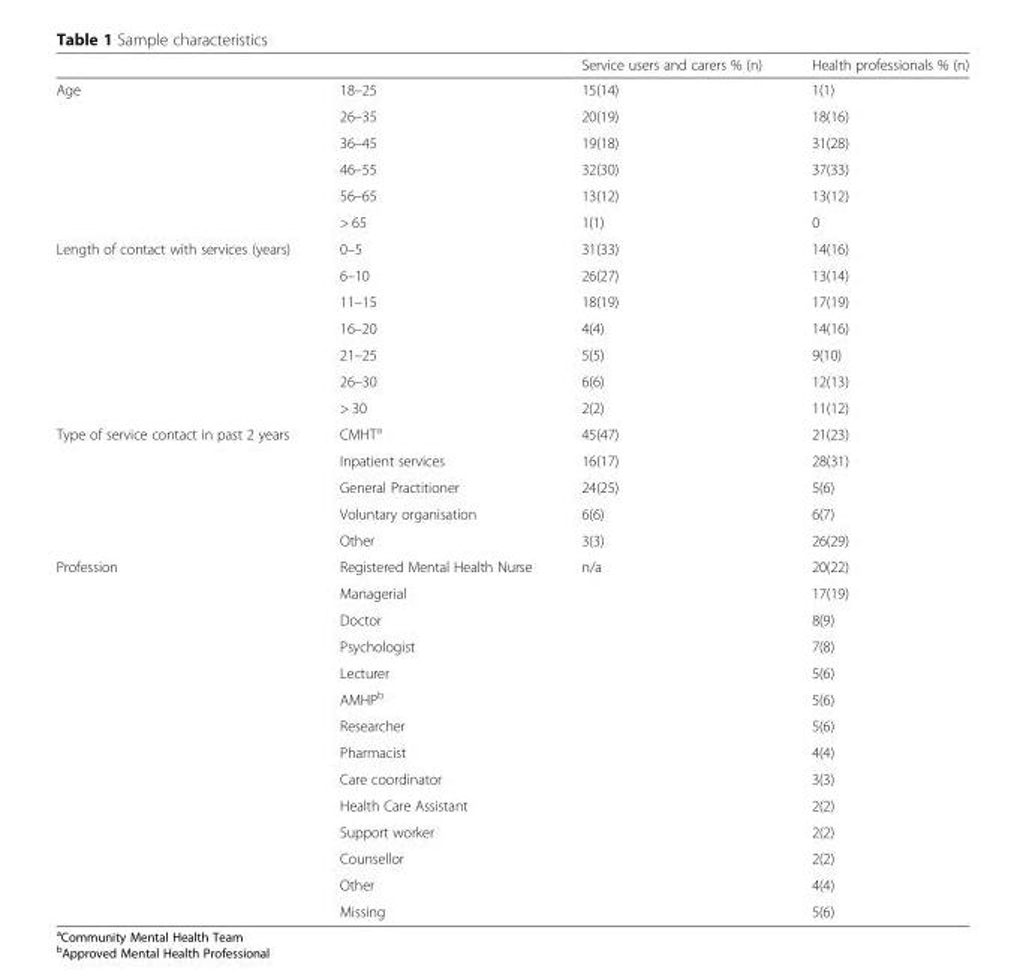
<table><thead><tr><td></td><td></td><td>Service users and carers % (n)</td><td>Health professionals % (n)</td></tr></thead><tbody><tr><td rowspan="6">Age</td><td>18–25</td><td>15(14)</td><td>1(1)</td></tr><tr><td>26–35</td><td>20(19)</td><td>18(16)</td></tr><tr><td>36–45</td><td>19(18)</td><td>31(28)</td></tr><tr><td>46–55</td><td>32(30)</td><td>37(33)</td></tr><tr><td>56–65</td><td>13(12)</td><td>13(12)</td></tr><tr><td>&gt; 65</td><td>1(1)</td><td>0</td></tr><tr><td rowspan="7">Length of contact with services (years)</td><td>0–5</td><td>31(33)</td><td>14(16)</td></tr><tr><td>6–10</td><td>26(27)</td><td>13(14)</td></tr><tr><td>11–15</td><td>18(19)</td><td>17(19)</td></tr><tr><td>16–20</td><td>4(4)</td><td>14(16)</td></tr><tr><td>21–25</td><td>5(5)</td><td>9(10)</td></tr><tr><td>26–30</td><td>6(6)</td><td>12(13)</td></tr><tr><td>&gt; 30</td><td>2(2)</td><td>11(12)</td></tr><tr><td rowspan="5">Type of service contact in past 2 years</td><td>CMHT<sup>a</sup></td><td>45(47)</td><td>21(23)</td></tr><tr><td>Inpatient services</td><td>16(17)</td><td>28(31)</td></tr><tr><td>General Practitioner</td><td>24(25)</td><td>5(6)</td></tr><tr><td>Voluntary organisation</td><td>6(6)</td><td>6(7)</td></tr><tr><td>Other</td><td>3(3)</td><td>26(29)</td></tr><tr><td rowspan="14">Profession</td><td>Registered Mental Health Nurse</td><td rowspan="14">n/a</td><td>20(22)</td></tr><tr><td>Managerial</td><td>17(19)</td></tr><tr><td>Doctor</td><td>8(9)</td></tr><tr><td>Psychologist</td><td>7(8)</td></tr><tr><td>Lecturer</td><td>5(6)</td></tr><tr><td>AMHP<sup>b</sup></td><td>5(6)</td></tr><tr><td>Researcher</td><td>5(6)</td></tr><tr><td>Pharmacist</td><td>4(4)</td></tr><tr><td>Care coordinator</td><td>3(3)</td></tr><tr><td>Health Care Assistant</td><td>2(2)</td></tr><tr><td>Support worker</td><td>2(2)</td></tr><tr><td>Counsellor</td><td>2(2)</td></tr><tr><td>Other</td><td>4(4)</td></tr><tr><td>Missing</td><td>5(6)</td></tr></tbody></table>